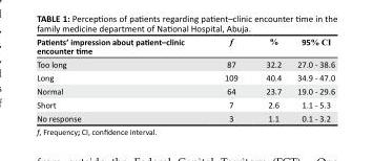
<table><thead><tr><td>Patients’ impression about patient–clinic encounter time</td><td>f</td><td>%</td><td>95% CI</td></tr></thead><tbody><tr><td>Too long</td><td>87</td><td>32.2</td><td>27.0 - 38.6</td></tr><tr><td>Long</td><td>109</td><td>40.4</td><td>34.9 - 47.0</td></tr><tr><td>Normal</td><td>64</td><td>23.7</td><td>19.0 - 29.6</td></tr><tr><td>Short</td><td>7</td><td>2.6</td><td>1.1 - 5.3</td></tr><tr><td>No response</td><td>3</td><td>1.1</td><td>0.1 - 3.2</td></tr></tbody></table>